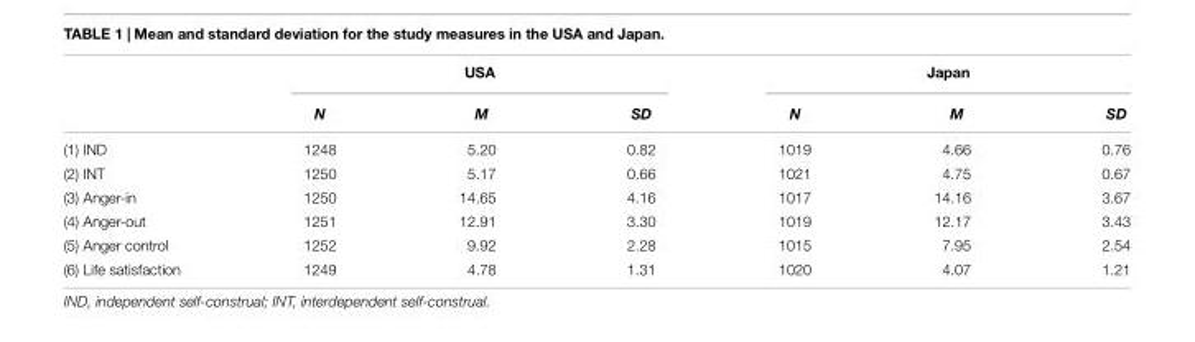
<table><thead><tr><td rowspan="2"></td><td colspan="3">USA</td><td colspan="3">Japan</td></tr><tr><td>N</td><td>M</td><td>SD</td><td>N</td><td>M</td><td>SD</td></tr></thead><tbody><tr><td>(1) IND</td><td>1248</td><td>5.20</td><td>0.82</td><td>1019</td><td>4.66</td><td>0.76</td></tr><tr><td>(2) INT</td><td>1250</td><td>5.17</td><td>0.66</td><td>1021</td><td>4.75</td><td>0.67</td></tr><tr><td>(3) Anger-in</td><td>1250</td><td>14.65</td><td>4.16</td><td>1017</td><td>14.16</td><td>3.67</td></tr><tr><td>(4) Anger-out</td><td>1251</td><td>12.91</td><td>3.30</td><td>1019</td><td>12.17</td><td>3.43</td></tr><tr><td>(5) Anger control</td><td>1252</td><td>9.92</td><td>2.28</td><td>1015</td><td>7.95</td><td>2.54</td></tr><tr><td>(6) Life satisfaction</td><td>1249</td><td>4.78</td><td>1.31</td><td>1020</td><td>4.07</td><td>1.21</td></tr></tbody></table>